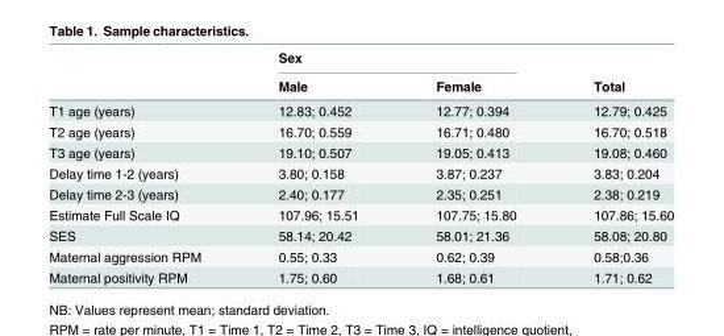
<table><thead><tr><td rowspan="2"></td><td colspan="2">Sex</td><td rowspan="2">Total</td></tr><tr><td>Male</td><td>Female</td></tr></thead><tbody><tr><td>T1 age (years)</td><td>12.83; 0.452</td><td>12.77; 0.394</td><td>12.79; 0.425</td></tr><tr><td>T2 age (years)</td><td>16.70; 0.559</td><td>16.71; 0.480</td><td>16.70; 0.518</td></tr><tr><td>T3 age (years)</td><td>19.10; 0.507</td><td>19.05; 0.413</td><td>19.08; 0.460</td></tr><tr><td>Delay time 1-2 (years)</td><td>3.80; 0.158</td><td>3.87; 0.237</td><td>3.83; 0.204</td></tr><tr><td>Delay time 2-3 (years)</td><td>2.40; 0.177</td><td>2.35; 0.251</td><td>2.38; 0.219</td></tr><tr><td>Estimate Full Scale IQ</td><td>107.96; 15.51</td><td>107.75; 15.80</td><td>107.86; 15.60</td></tr><tr><td>SES</td><td>58.14; 20.42</td><td>58.01; 21.36</td><td>58.08; 20.80</td></tr><tr><td>Maternal aggression RPM</td><td>0.55; 0.33</td><td>0.62; 0.39</td><td>0.58;0.36</td></tr><tr><td>Maternal positivity RPM</td><td>1.75; 0.60</td><td>1.68; 0.61</td><td>1.71; 0.62</td></tr></tbody></table>